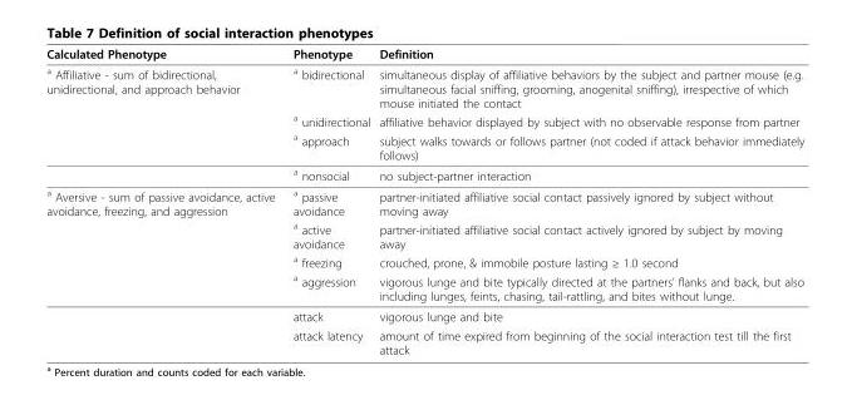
<table><thead><tr><td>Calculated Phenotype</td><td>Phenotype</td><td>Definition</td></tr></thead><tbody><tr><td rowspan="4"><sup>a</sup> Affiliative - sum of bidirectional, unidirectional, and approach behavior</td><td><sup>a</sup> bidirectional</td><td>simultaneous display of affiliative behaviors by the subject and partner mouse (e.g. simultaneous facial sniffing, grooming, anogenital sniffing), irrespective of which mouse initiated the contact</td></tr><tr><td><sup>a</sup> unidirectional</td><td>affiliative behavior displayed by subject with no observable response from partner</td></tr><tr><td><sup>a</sup> approach</td><td>subject walks towards or follows partner (not coded if attack behavior immediately follows)</td></tr><tr><td><sup>a</sup> nonsocial</td><td>no subject-partner interaction</td></tr><tr><td rowspan="6"><sup>a</sup> Aversive - sum of passive avoidance, active avoidance, freezing, and aggression</td><td><sup>a</sup> passive avoidance</td><td>partner-initiated affiliative social contact passively ignored by subject without moving away</td></tr><tr><td><sup>a</sup> active avoidance</td><td>partner-initiated affiliative social contact actively ignored by subject by moving away</td></tr><tr><td><sup>a</sup> freezing</td><td>crouched, prone, &amp; immobile posture lasting ≥ 1.0 second</td></tr><tr><td><sup>a</sup> aggression</td><td>vigorous lunge and bite typically directed at the partners’ flanks and back, but also including lunges, feints, chasing, tail-rattling, and bites without lunge.</td></tr><tr><td>attack</td><td>vigorous lunge and bite</td></tr><tr><td>attack latency</td><td>amount of time expired from beginning of the social interaction test till the first attack</td></tr></tbody></table>